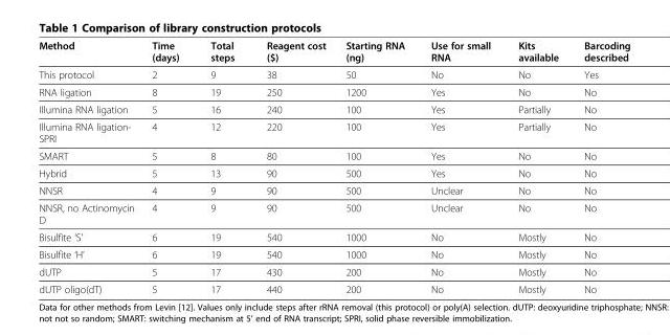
<table><thead><tr><td>Method</td><td>Time (days)</td><td>Total steps</td><td>Reagent cost ($)</td><td>Starting RNA (ng)</td><td>Use for small RNA</td><td>Kits available</td><td>Barcoding described</td></tr></thead><tbody><tr><td>This protocol</td><td>2</td><td>9</td><td>38</td><td>50</td><td>No</td><td>No</td><td>Yes</td></tr><tr><td>RNA ligation</td><td>8</td><td>19</td><td>250</td><td>1200</td><td>Yes</td><td>No</td><td>No</td></tr><tr><td>Illumina RNA ligation</td><td>5</td><td>16</td><td>240</td><td>100</td><td>Yes</td><td>Partially</td><td>No</td></tr><tr><td>Illumina RNA ligation- SPRI</td><td>4</td><td>12</td><td>220</td><td>100</td><td>Yes</td><td>Partially</td><td>No</td></tr><tr><td>SMART</td><td>5</td><td>8</td><td>80</td><td>100</td><td>Yes</td><td>No</td><td>No</td></tr><tr><td>Hybrid</td><td>5</td><td>13</td><td>90</td><td>500</td><td>Yes</td><td>No</td><td>No</td></tr><tr><td>NNSR</td><td>4</td><td>9</td><td>90</td><td>500</td><td>Unclear</td><td>No</td><td>No</td></tr><tr><td>NNSR, no Actinomycin D</td><td>4</td><td>9</td><td>90</td><td>500</td><td>Unclear</td><td>No</td><td>No</td></tr><tr><td>Bisulfite ‘S’</td><td>6</td><td>19</td><td>540</td><td>1000</td><td>No</td><td>Mostly</td><td>No</td></tr><tr><td>Bisulfite ‘H’</td><td>6</td><td>19</td><td>540</td><td>1000</td><td>No</td><td>Mostly</td><td>No</td></tr><tr><td>dUTP</td><td>5</td><td>17</td><td>430</td><td>200</td><td>No</td><td>Mostly</td><td>No</td></tr><tr><td>dUTP oligo(dT)</td><td>5</td><td>17</td><td>440</td><td>200</td><td>No</td><td>Mostly</td><td>No</td></tr></tbody></table>